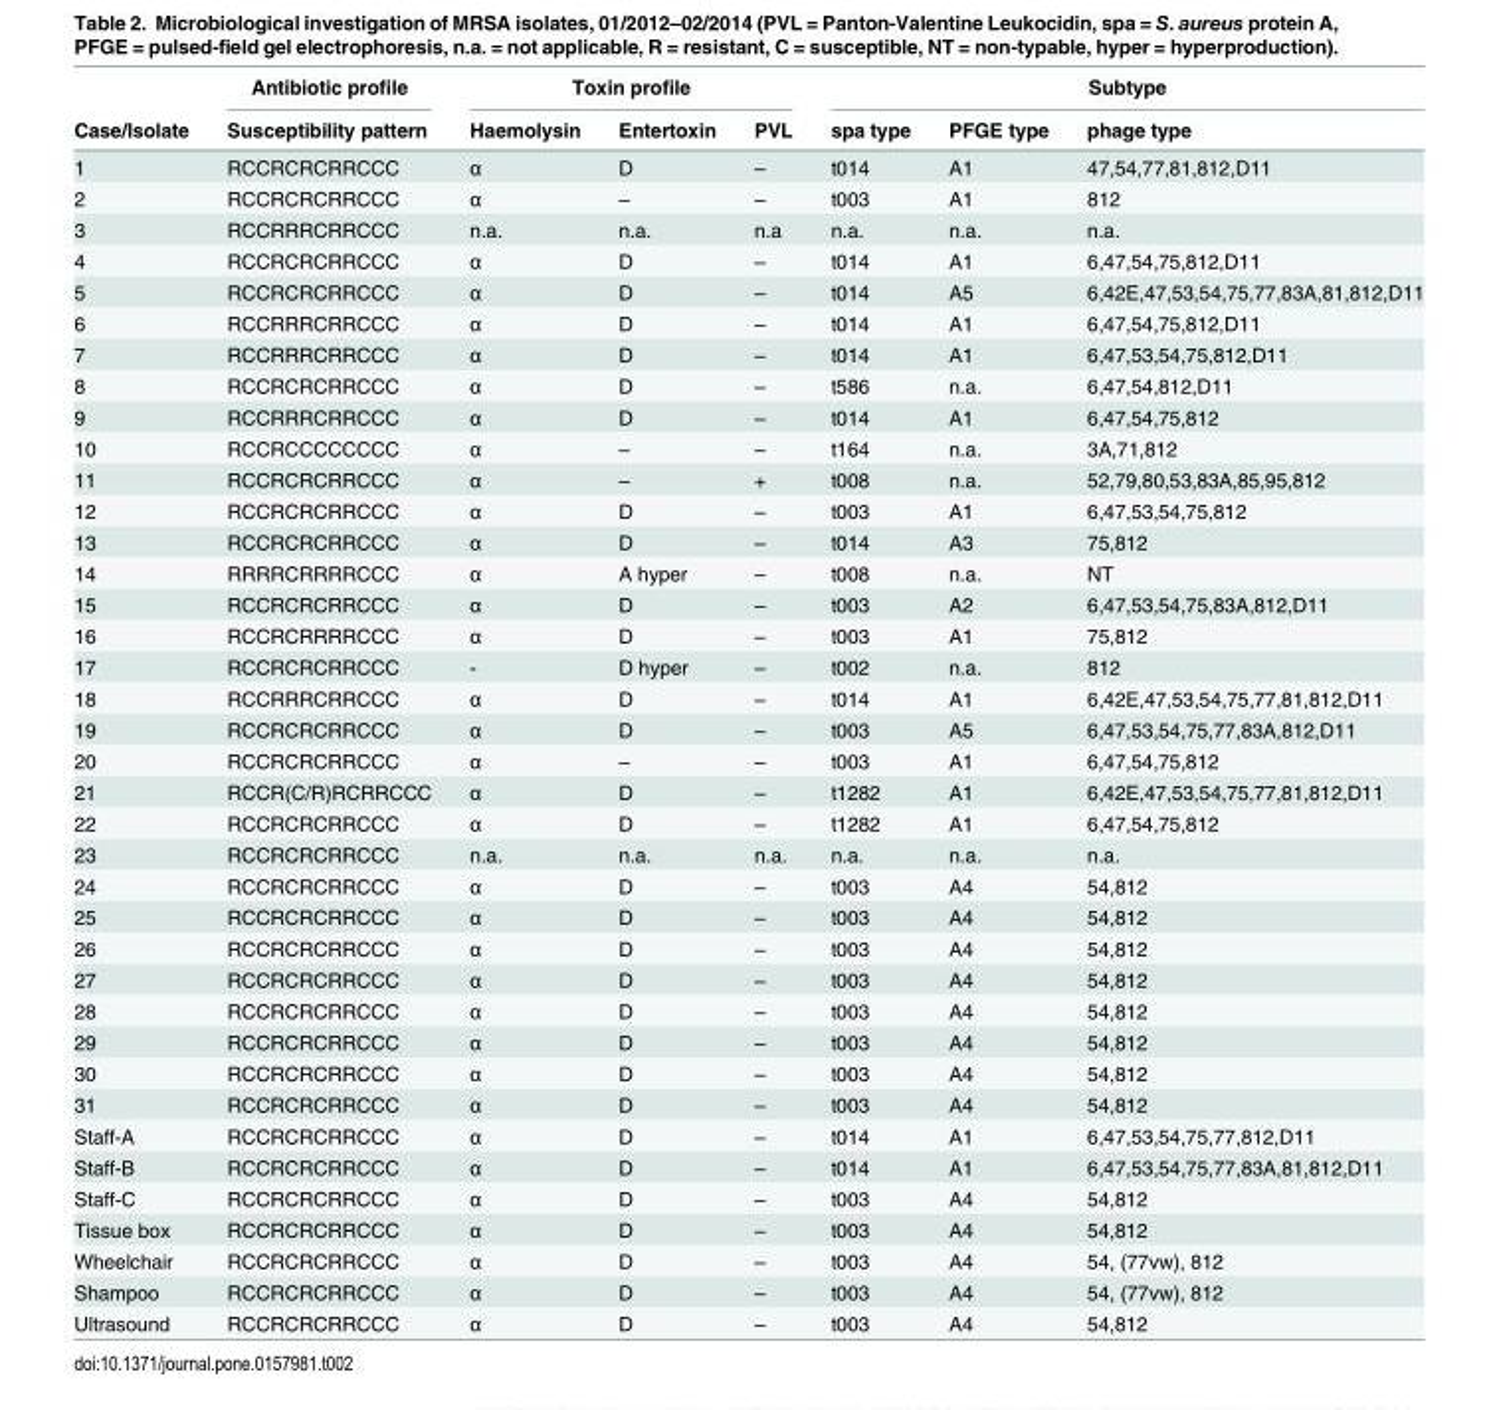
<table><thead><tr><td rowspan="2">Case/Isolate</td><td rowspan="2">Antibiotic profile Susceptibility pattern</td><td colspan="3">Toxin profile</td><td colspan="3">Subtype</td></tr><tr><td>Haemolysin</td><td>Entertoxin</td><td>PVL</td><td>spa type</td><td>PFGE type</td><td>phage type</td></tr></thead><tbody><tr><td>1</td><td>RCCRCRCRRCCC</td><td>α</td><td>D</td><td>–</td><td>t014</td><td>A1</td><td>47,54,77,81,812,D11</td></tr><tr><td>2</td><td>RCCRCRCRRCCC</td><td>α</td><td>–</td><td>–</td><td>t003</td><td>A1</td><td>812</td></tr><tr><td>3</td><td>RCCRRRCRRCCC</td><td>n.a.</td><td>n.a.</td><td>n.a</td><td>n.a.</td><td>n.a.</td><td>n.a.</td></tr><tr><td>4</td><td>RCCRCRCRRCCC</td><td>α</td><td>D</td><td>–</td><td>t014</td><td>A1</td><td>6,47,54,75,812,D11</td></tr><tr><td>5</td><td>RCCRCRCRRCCC</td><td>α</td><td>D</td><td>–</td><td>t014</td><td>A5</td><td>6,42E,47,53,54,75,77,83A,81,812,D11</td></tr><tr><td>6</td><td>RCCRRRCRRCCC</td><td>α</td><td>D</td><td>–</td><td>t014</td><td>A1</td><td>6,47,54,75,812,D11</td></tr><tr><td>7</td><td>RCCRRRCRRCCC</td><td>α</td><td>D</td><td>–</td><td>t014</td><td>A1</td><td>6,47,53,54,75,812,D11</td></tr><tr><td>8</td><td>RCCRCRCRRCCC</td><td>α</td><td>D</td><td>–</td><td>t586</td><td>n.a.</td><td>6,47,54,812,D11</td></tr><tr><td>9</td><td>RCCRRRCRRCCC</td><td>α</td><td>D</td><td>–</td><td>t014</td><td>A1</td><td>6,47,54,75,812</td></tr><tr><td>10</td><td>RCCRCCCCCCCC</td><td>α</td><td>–</td><td>–</td><td>t164</td><td>n.a.</td><td>3A,71,812</td></tr><tr><td>11</td><td>RCCRCRCRRCCC</td><td>α</td><td>–</td><td>+</td><td>t008</td><td>n.a.</td><td>52,79,80,53,83A,85,95,812</td></tr><tr><td>12</td><td>RCCRCRCRRCCC</td><td>α</td><td>D</td><td>–</td><td>t003</td><td>A1</td><td>6,47,53,54,75,812</td></tr><tr><td>13</td><td>RCCRCRCRRCCC</td><td>α</td><td>D</td><td>–</td><td>t014</td><td>A3</td><td>75,812</td></tr><tr><td>14</td><td>RRRRCRRRRCCC</td><td>α</td><td>A hyper</td><td>–</td><td>t008</td><td>n.a.</td><td>NT</td></tr><tr><td>15</td><td>RCCRCRCRRCCC</td><td>α</td><td>D</td><td>–</td><td>t003</td><td>A2</td><td>6,47,53,54,75,83A,812,D11</td></tr><tr><td>16</td><td>RCCRCRRRRCCC</td><td>α</td><td>D</td><td>–</td><td>t003</td><td>A1</td><td>75,812</td></tr><tr><td>17</td><td>RCCRCRCRRCCC</td><td>-</td><td>D hyper</td><td>–</td><td>t002</td><td>n.a.</td><td>812</td></tr><tr><td>18</td><td>RCCRRRCRRCCC</td><td>α</td><td>D</td><td>–</td><td>t014</td><td>A1</td><td>6,42E,47,53,54,75,77,81,812,D11</td></tr><tr><td>19</td><td>RCCRCRCRRCCC</td><td>α</td><td>D</td><td>–</td><td>t003</td><td>A5</td><td>6,47,53,54,75,77,83A,812,D11</td></tr><tr><td>20</td><td>RCCRCRCRRCCC</td><td>α</td><td>–</td><td>–</td><td>t003</td><td>A1</td><td>6,47,54,75,812</td></tr><tr><td>21</td><td>RCCR(C/R)RCRRCCC</td><td>α</td><td>D</td><td>–</td><td>t1282</td><td>A1</td><td>6,42E,47,53,54,75,77,81,812,D11</td></tr><tr><td>22</td><td>RCCRCRCRRCCC</td><td>α</td><td>D</td><td>–</td><td>t1282</td><td>A1</td><td>6,47,54,75,812</td></tr><tr><td>23</td><td>RCCRCRCRRCCC</td><td>n.a.</td><td>n.a.</td><td>n.a.</td><td>n.a.</td><td>n.a.</td><td>n.a.</td></tr><tr><td>24</td><td>RCCRCRCRRCCC</td><td>α</td><td>D</td><td>–</td><td>t003</td><td>A4</td><td>54,812</td></tr><tr><td>25</td><td>RCCRCRCRRCCC</td><td>α</td><td>D</td><td>–</td><td>t003</td><td>A4</td><td>54,812</td></tr><tr><td>26</td><td>RCCRCRCRRCCC</td><td>α</td><td>D</td><td>–</td><td>t003</td><td>A4</td><td>54,812</td></tr><tr><td>27</td><td>RCCRCRCRRCCC</td><td>α</td><td>D</td><td>–</td><td>t003</td><td>A4</td><td>54,812</td></tr><tr><td>28</td><td>RCCRCRCRRCCC</td><td>α</td><td>D</td><td>–</td><td>t003</td><td>A4</td><td>54,812</td></tr><tr><td>29</td><td>RCCRCRCRRCCC</td><td>α</td><td>D</td><td>–</td><td>t003</td><td>A4</td><td>54,812</td></tr><tr><td>30</td><td>RCCRCRCRRCCC</td><td>α</td><td>D</td><td>–</td><td>t003</td><td>A4</td><td>54,812</td></tr><tr><td>31</td><td>RCCRCRCRRCCC</td><td>α</td><td>D</td><td>–</td><td>t003</td><td>A4</td><td>54,812</td></tr><tr><td>Staff-A</td><td>RCCRCRCRRCCC</td><td>α</td><td>D</td><td>–</td><td>t014</td><td>A1</td><td>6,47,53,54,75,77,812,D11</td></tr><tr><td>Staff-B</td><td>RCCRCRCRRCCC</td><td>α</td><td>D</td><td>–</td><td>t014</td><td>A1</td><td>6,47,53,54,75,77,83A,81,812,D11</td></tr><tr><td>Staff-C</td><td>RCCRCRCRRCCC</td><td>α</td><td>D</td><td>–</td><td>t003</td><td>A4</td><td>54,812</td></tr><tr><td>Tissue box</td><td>RCCRCRCRRCCC</td><td>α</td><td>D</td><td>–</td><td>t003</td><td>A4</td><td>54,812</td></tr><tr><td>Wheelchair</td><td>RCCRCRCRRCCC</td><td>α</td><td>D</td><td>–</td><td>t003</td><td>A4</td><td>54, (77vw), 812</td></tr><tr><td>Shampoo</td><td>RCCRCRCRRCCC</td><td>α</td><td>D</td><td>–</td><td>t003</td><td>A4</td><td>54, (77vw), 812</td></tr><tr><td>Ultrasound</td><td>RCCRCRCRRCCC</td><td>α</td><td>D</td><td>–</td><td>t003</td><td>A4</td><td>54,812</td></tr></tbody></table>